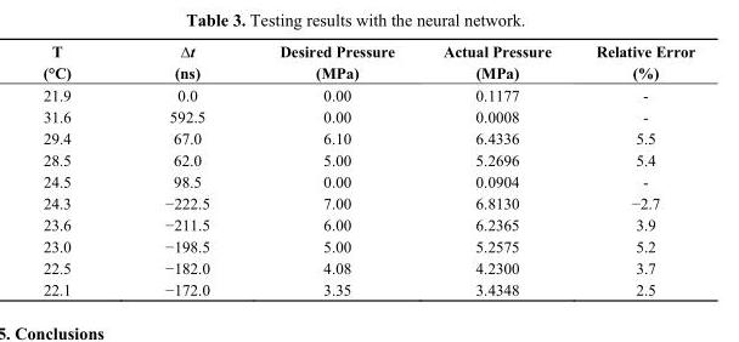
<table><thead><tr><td>T (°C)</td><td>∆t (ns)</td><td>Desired Pressure (MPa)</td><td>Actual Pressure (MPa)</td><td>Relative Error (%)</td></tr></thead><tbody><tr><td>21.9</td><td>0.0</td><td>0.00</td><td>0.1177</td><td>-</td></tr><tr><td>31.6</td><td>592.5</td><td>0.00</td><td>0.0008</td><td>-</td></tr><tr><td>29.4</td><td>67.0</td><td>6.10</td><td>6.4336</td><td>5.5</td></tr><tr><td>28.5</td><td>62.0</td><td>5.00</td><td>5.2696</td><td>5.4</td></tr><tr><td>24.5</td><td>98.5</td><td>0.00</td><td>0.0904</td><td>-</td></tr><tr><td>24.3</td><td>−222.5</td><td>7.00</td><td>6.8130</td><td>−2.7</td></tr><tr><td>23.6</td><td>−211.5</td><td>6.00</td><td>6.2365</td><td>3.9</td></tr><tr><td>23.0</td><td>−198.5</td><td>5.00</td><td>5.2575</td><td>5.2</td></tr><tr><td>22.5</td><td>−182.0</td><td>4.08</td><td>4.2300</td><td>3.7</td></tr><tr><td>22.1</td><td>−172.0</td><td>3.35</td><td>3.4348</td><td>2.5</td></tr></tbody></table>